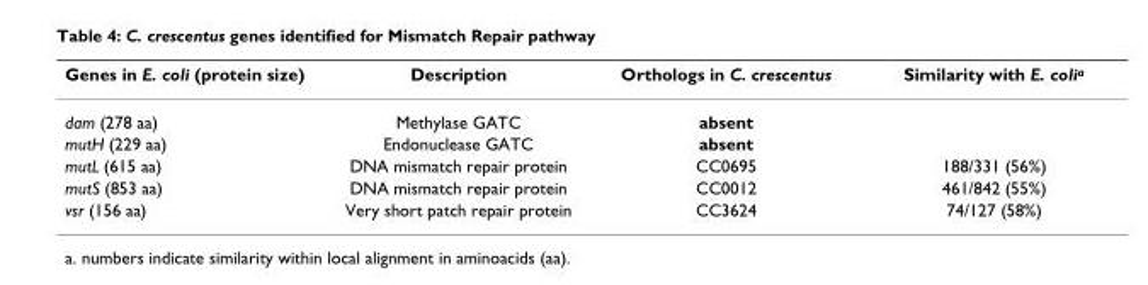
<table><thead><tr><td>Genes in E. coli (protein size)</td><td>Description</td><td>Orthologs in C. crescentus</td><td>Similarity with E. colia</td></tr></thead><tbody><tr><td>dam (278 aa)</td><td>Methylase GATC</td><td>absent</td><td></td></tr><tr><td>mutH (229 aa)</td><td>Endonuclease GATC</td><td>absent</td><td></td></tr><tr><td>mutL (615 aa)</td><td>DNA mismatch repair protein</td><td>CC0695</td><td>188/331 (56%)</td></tr><tr><td>mutS (853 aa)</td><td>DNA mismatch repair protein</td><td>CC0012</td><td>461/842 (55%)</td></tr><tr><td>vsr (156 aa)</td><td>Very short patch repair protein</td><td>CC3624</td><td>74/127 (58%)</td></tr></tbody></table>